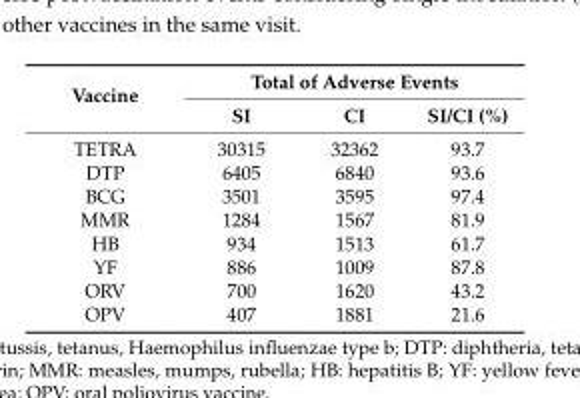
<table><thead><tr><td rowspan="2">Vaccine</td><td colspan="3">Total of Adverse Events</td></tr><tr><td>SI</td><td>CI</td><td>SI/CI (%)</td></tr></thead><tbody><tr><td>TETRA</td><td>30315</td><td>32362</td><td>93.7</td></tr><tr><td>DTP</td><td>6405</td><td>6840</td><td>93.6</td></tr><tr><td>BCG</td><td>3501</td><td>3595</td><td>97.4</td></tr><tr><td>MMR</td><td>1284</td><td>1567</td><td>81.9</td></tr><tr><td>HB</td><td>934</td><td>1513</td><td>61.7</td></tr><tr><td>YF</td><td>886</td><td>1009</td><td>87.8</td></tr><tr><td>ORV</td><td>700</td><td>1620</td><td>43.2</td></tr><tr><td>OPV</td><td>407</td><td>1881</td><td>21.6</td></tr></tbody></table>